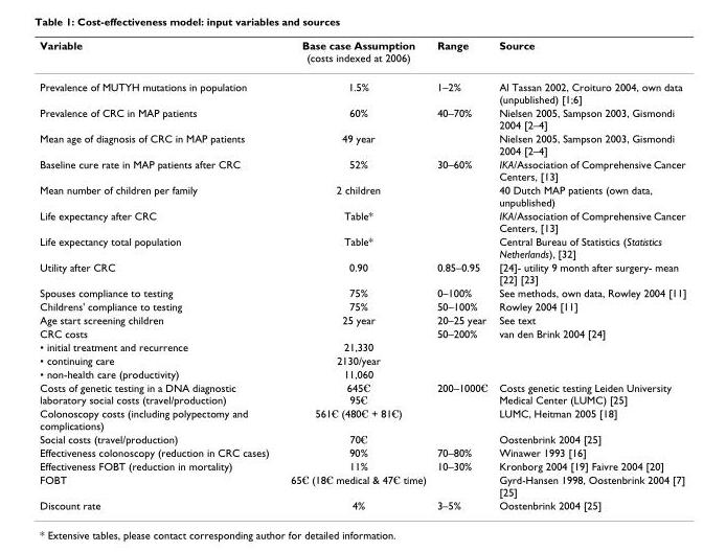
<table><thead><tr><td>Variable</td><td>Base case Assumption (costs indexed at 2006)</td><td>Range</td><td>Source</td></tr></thead><tbody><tr><td>Prevalence of MUTYH mutations in population</td><td>1.5%</td><td>1–2%</td><td>Al Tassan 2002, Croituro 2004, own data (unpublished) [1;6]</td></tr><tr><td>Prevalence of CRC in MAP patients</td><td>60%</td><td>40–70%</td><td>Nielsen 2005, Sampson 2003, Gismondi 2004 [2–4]</td></tr><tr><td>Mean age of diagnosis of CRC in MAP patients</td><td>49 year</td><td></td><td>Nielsen 2005, Sampson 2003, Gismondi 2004 [2–4]</td></tr><tr><td>Baseline cure rate in MAP patients after CRC</td><td>52%</td><td>30–60%</td><td>IKA/Association of Comprehensive Cancer Centers, [13]</td></tr><tr><td>Mean number of children per family</td><td>2 children</td><td></td><td>40 Dutch MAP patients (own data, unpublished)</td></tr><tr><td>Life expectancy after CRC</td><td>Table*</td><td></td><td>IKA/Association of Comprehensive Cancer Centers, [13]</td></tr><tr><td>Life expectancy total population</td><td>Table*</td><td></td><td>Central Bureau of Statistics (Statistics Netherlands), [32]</td></tr><tr><td>Utility after CRC</td><td>0.90</td><td>0.85–0.95</td><td>[24]- utility 9 month after surgery- mean [22] [23]</td></tr><tr><td>Spouses compliance to testing</td><td>75%</td><td>0–100%</td><td>See methods, own data, Rowley 2004 [11]</td></tr><tr><td>Childrens&#x27; compliance to testing</td><td>75%</td><td>50–100%</td><td>Rowley 2004 [11]</td></tr><tr><td>Age start screening children</td><td>25 year</td><td>20–25 year</td><td>See text</td></tr><tr><td>CRC costs</td><td></td><td>50–200%</td><td>van den Brink 2004 [24]</td></tr><tr><td>• initial treatment and recurrence</td><td>21,330</td><td></td><td></td></tr><tr><td>• continuing care</td><td>2130/year</td><td></td><td></td></tr><tr><td>• non-health care (productivity)</td><td>11,060</td><td></td><td></td></tr><tr><td>Costs of genetic testing in a DNA diagnostic laboratory social costs (travel/production)</td><td>645€ 95€</td><td>200–1000€</td><td>Costs genetic testing Leiden University Medical Center (LUMC) [25]</td></tr><tr><td>Colonoscopy costs (including polypectomy and complications)</td><td>561€ (480€ + 81€)</td><td></td><td>LUMC, Heitman 2005 [18]</td></tr><tr><td>Social costs (travel/production)</td><td>70€</td><td></td><td>Oostenbrink 2004 [25]</td></tr><tr><td>Effectiveness colonoscopy (reduction in CRC cases)</td><td>90%</td><td>70–80%</td><td>Winawer 1993 [16]</td></tr><tr><td>Effectiveness FOBT (reduction in mortality)</td><td>11%</td><td>10–30%</td><td>Kronborg 2004 [19] Faivre 2004 [20]</td></tr><tr><td>FOBT</td><td>65€ (18€ medical &amp; 47€ time)</td><td></td><td>Gyrd-Hansen 1998, Oostenbrink 2004 [7] [25]</td></tr><tr><td>Discount rate</td><td>4%</td><td>3–5%</td><td>Oostenbrink 2004 [25]</td></tr></tbody></table>